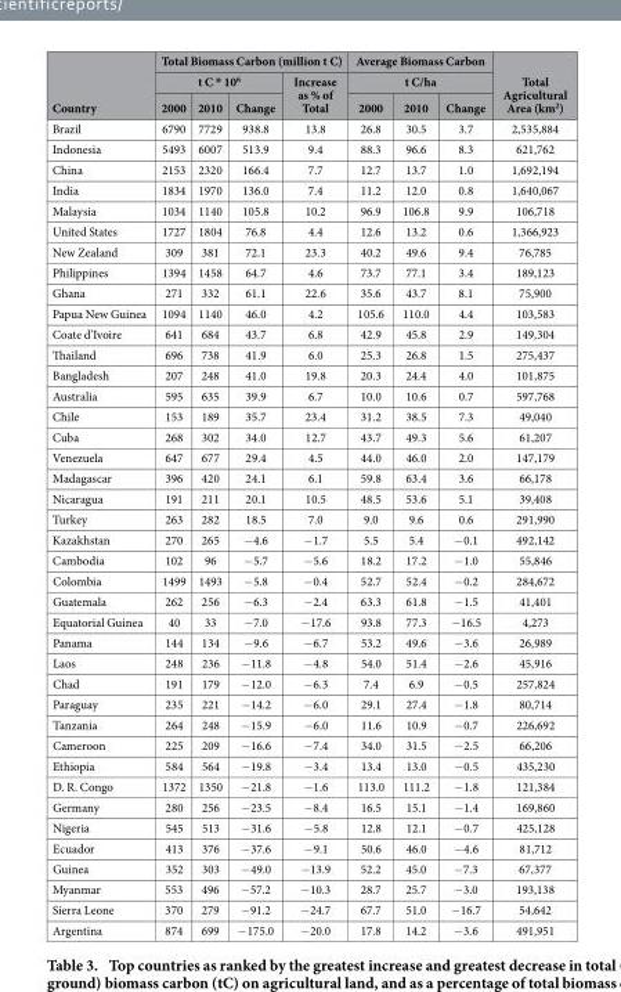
<table><thead><tr><td rowspan="3">Country</td><td colspan="4">Total Biomass Carbon (million t C)</td><td rowspan="2" colspan="3">Average Biomass Carbon t C/ha</td><td rowspan="3">Total Agricultural Area (km<sup>2</sup>)</td></tr><tr><td colspan="3">t C * 10<sup>6</sup></td><td rowspan="2">Increase as % of Total</td></tr><tr><td>2000</td><td>2010</td><td>Change</td><td>2000</td><td>2010</td><td>Change</td></tr></thead><tbody><tr><td>Brazil</td><td>6790</td><td>7729</td><td>938.8</td><td>13.8</td><td>26.8</td><td>30.5</td><td>3.7</td><td>2,535,884</td></tr><tr><td>Indonesia</td><td>5493</td><td>6007</td><td>513.9</td><td>9.4</td><td>88.3</td><td>96.6</td><td>8.3</td><td>621,762</td></tr><tr><td>China</td><td>2153</td><td>2320</td><td>166.4</td><td>7.7</td><td>12.7</td><td>13.7</td><td>1.0</td><td>1,692,194</td></tr><tr><td>India</td><td>1834</td><td>1970</td><td>136.0</td><td>7.4</td><td>11.2</td><td>12.0</td><td>0.8</td><td>1,640,067</td></tr><tr><td>Malaysia</td><td>1034</td><td>1140</td><td>105.8</td><td>10.2</td><td>96.9</td><td>106.8</td><td>9.9</td><td>106,718</td></tr><tr><td>United States</td><td>1727</td><td>1804</td><td>76.8</td><td>4.4</td><td>12.6</td><td>13.2</td><td>0.6</td><td>1,366,923</td></tr><tr><td>New Zealand</td><td>309</td><td>381</td><td>72.1</td><td>23.3</td><td>40.2</td><td>49.6</td><td>9.4</td><td>76,785</td></tr><tr><td>Philippines</td><td>1394</td><td>1458</td><td>64.7</td><td>4.6</td><td>73.7</td><td>77.1</td><td>3.4</td><td>189,123</td></tr><tr><td>Ghana</td><td>271</td><td>332</td><td>61.1</td><td>22.6</td><td>35.6</td><td>43.7</td><td>8.1</td><td>75,900</td></tr><tr><td>Papua New Guinea</td><td>1094</td><td>1140</td><td>46.0</td><td>4.2</td><td>105.6</td><td>110.0</td><td>4.4</td><td>103,583</td></tr><tr><td>Coate d’Ivoire</td><td>641</td><td>684</td><td>43.7</td><td>6.8</td><td>42.9</td><td>45.8</td><td>2.9</td><td>149,304</td></tr><tr><td>Thailand</td><td>696</td><td>738</td><td>41.9</td><td>6.0</td><td>25.3</td><td>26.8</td><td>1.5</td><td>275,437</td></tr><tr><td>Bangladesh</td><td>207</td><td>248</td><td>41.0</td><td>19.8</td><td>20.3</td><td>24.4</td><td>4.0</td><td>101,875</td></tr><tr><td>Australia</td><td>595</td><td>635</td><td>39.9</td><td>6.7</td><td>10.0</td><td>10.6</td><td>0.7</td><td>597,768</td></tr><tr><td>Chile</td><td>153</td><td>189</td><td>35.7</td><td>23.4</td><td>31.2</td><td>38.5</td><td>7.3</td><td>49,040</td></tr><tr><td>Cuba</td><td>268</td><td>302</td><td>34.0</td><td>12.7</td><td>43.7</td><td>49.3</td><td>5.6</td><td>61,207</td></tr><tr><td>Venezuela</td><td>647</td><td>677</td><td>29.4</td><td>4.5</td><td>44.0</td><td>46.0</td><td>2.0</td><td>147,179</td></tr><tr><td>Madagascar</td><td>396</td><td>420</td><td>24.1</td><td>6.1</td><td>59.8</td><td>63.4</td><td>3.6</td><td>66,178</td></tr><tr><td>Nicaragua</td><td>191</td><td>211</td><td>20.1</td><td>10.5</td><td>48.5</td><td>53.6</td><td>5.1</td><td>39,408</td></tr><tr><td>Turkey</td><td>263</td><td>282</td><td>18.5</td><td>7.0</td><td>9.0</td><td>9.6</td><td>0.6</td><td>291,990</td></tr><tr><td>Kazakhstan</td><td>270</td><td>265</td><td>− 4.6</td><td>− 1.7</td><td>5.5</td><td>5.4</td><td>− 0.1</td><td>492,142</td></tr><tr><td>Cambodia</td><td>102</td><td>96</td><td>− 5.7</td><td>− 5.6</td><td>18.2</td><td>17.2</td><td>− 1.0</td><td>55,846</td></tr><tr><td>Colombia</td><td>1499</td><td>1493</td><td>− 5.8</td><td>− 0.4</td><td>52.7</td><td>52.4</td><td>− 0.2</td><td>284,672</td></tr><tr><td>Guatemala</td><td>262</td><td>256</td><td>− 6.3</td><td>− 2.4</td><td>63.3</td><td>61.8</td><td>− 1.5</td><td>41,401</td></tr><tr><td>Equatorial Guinea</td><td>40</td><td>33</td><td>− 7.0</td><td>− 17.6</td><td>93.8</td><td>77.3</td><td>− 16.5</td><td>4,273</td></tr><tr><td>Panama</td><td>144</td><td>134</td><td>− 9.6</td><td>− 6.7</td><td>53.2</td><td>49.6</td><td>− 3.6</td><td>26,989</td></tr><tr><td>Laos</td><td>248</td><td>236</td><td>− 11.8</td><td>− 4.8</td><td>54.0</td><td>51.4</td><td>− 2.6</td><td>45,916</td></tr><tr><td>Chad</td><td>191</td><td>179</td><td>− 12.0</td><td>− 6.3</td><td>7.4</td><td>6.9</td><td>− 0.5</td><td>257,824</td></tr><tr><td>Paraguay</td><td>235</td><td>221</td><td>− 14.2</td><td>− 6.0</td><td>29.1</td><td>27.4</td><td>− 1.8</td><td>80,714</td></tr><tr><td>Tanzania</td><td>264</td><td>248</td><td>− 15.9</td><td>− 6.0</td><td>11.6</td><td>10.9</td><td>− 0.7</td><td>226,692</td></tr><tr><td>Cameroon</td><td>225</td><td>209</td><td>− 16.6</td><td>− 7.4</td><td>34.0</td><td>31.5</td><td>− 2.5</td><td>66,206</td></tr><tr><td>Ethiopia</td><td>584</td><td>564</td><td>− 19.8</td><td>− 3.4</td><td>13.4</td><td>13.0</td><td>− 0.5</td><td>435,230</td></tr><tr><td>D. R. Congo</td><td>1372</td><td>1350</td><td>− 21.8</td><td>− 1.6</td><td>113.0</td><td>111.2</td><td>− 1.8</td><td>121,384</td></tr><tr><td>Germany</td><td>280</td><td>256</td><td>− 23.5</td><td>− 8.4</td><td>16.5</td><td>15.1</td><td>− 1.4</td><td>169,860</td></tr><tr><td>Nigeria</td><td>545</td><td>513</td><td>− 31.6</td><td>− 5.8</td><td>12.8</td><td>12.1</td><td>− 0.7</td><td>425,128</td></tr><tr><td>Ecuador</td><td>413</td><td>376</td><td>− 37.6</td><td>− 9.1</td><td>50.6</td><td>46.0</td><td>− 4.6</td><td>81,712</td></tr><tr><td>Guinea</td><td>352</td><td>303</td><td>− 49.0</td><td>− 13.9</td><td>52.2</td><td>45.0</td><td>− 7.3</td><td>67,377</td></tr><tr><td>Myanmar</td><td>553</td><td>496</td><td>− 57.2</td><td>− 10.3</td><td>28.7</td><td>25.7</td><td>− 3.0</td><td>193,138</td></tr><tr><td>Sierra Leone</td><td>370</td><td>279</td><td>− 91.2</td><td>− 24.7</td><td>67.7</td><td>51.0</td><td>− 16.7</td><td>54,642</td></tr><tr><td>Argentina</td><td>874</td><td>699</td><td>− 175.0</td><td>− 20.0</td><td>17.8</td><td>14.2</td><td>− 3.6</td><td>491,951</td></tr></tbody></table>